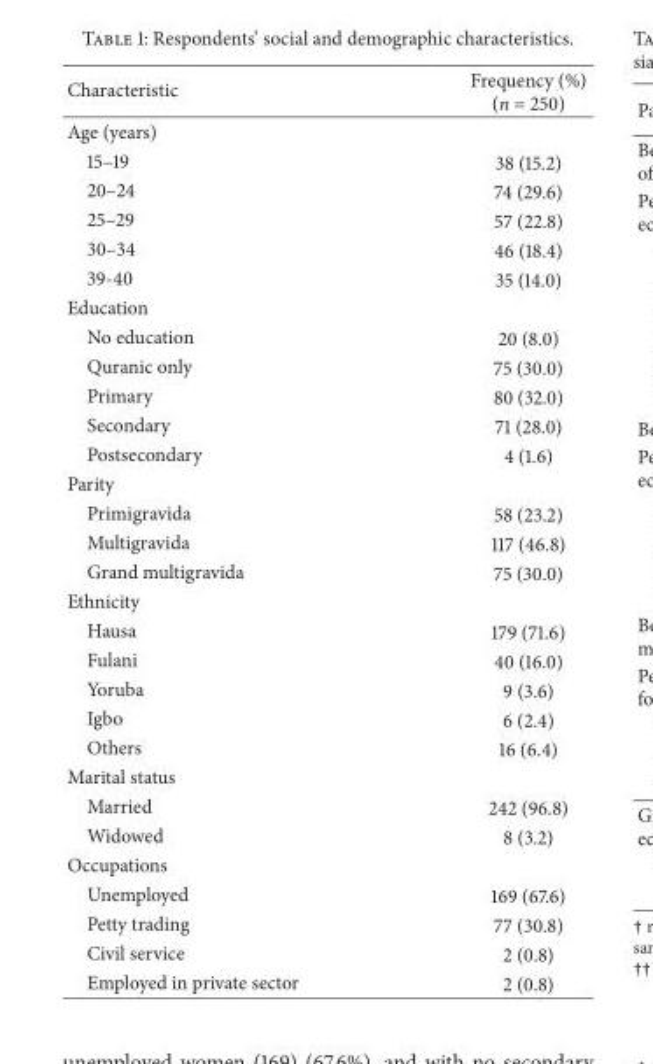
<table><thead><tr><td>Characteristic</td><td>Frequency (%) (n = 250)</td></tr></thead><tbody><tr><td colspan="2">Age (years)</td></tr><tr><td>15–19</td><td>38 (15.2)</td></tr><tr><td>20–24</td><td>74 (29.6)</td></tr><tr><td>25–29</td><td>57 (22.8)</td></tr><tr><td>30–34</td><td>46 (18.4)</td></tr><tr><td>39-40</td><td>35 (14.0)</td></tr><tr><td colspan="2">Education</td></tr><tr><td>No education</td><td>20 (8.0)</td></tr><tr><td>Quranic only</td><td>75 (30.0)</td></tr><tr><td>Primary</td><td>80 (32.0)</td></tr><tr><td>Secondary</td><td>71 (28.0)</td></tr><tr><td>Postsecondary</td><td>4 (1.6)</td></tr><tr><td colspan="2">Parity</td></tr><tr><td>Primigravida</td><td>58 (23.2)</td></tr><tr><td>Multigravida</td><td>117 (46.8)</td></tr><tr><td>Grand multigravida</td><td>75 (30.0)</td></tr><tr><td colspan="2">Ethnicity</td></tr><tr><td>Hausa</td><td>179 (71.6)</td></tr><tr><td>Fulani</td><td>40 (16.0)</td></tr><tr><td>Yoruba</td><td>9 (3.6)</td></tr><tr><td>Igbo</td><td>6 (2.4)</td></tr><tr><td>Others</td><td>16 (6.4)</td></tr><tr><td colspan="2">Marital status</td></tr><tr><td>Married</td><td>242 (96.8)</td></tr><tr><td>Widowed</td><td>8 (3.2)</td></tr><tr><td colspan="2">Occupations</td></tr><tr><td>Unemployed</td><td>169 (67.6)</td></tr><tr><td>Petty trading</td><td>77 (30.8)</td></tr><tr><td>Civil service</td><td>2 (0.8)</td></tr><tr><td>Employed in private sector</td><td>2 (0.8)</td></tr></tbody></table>